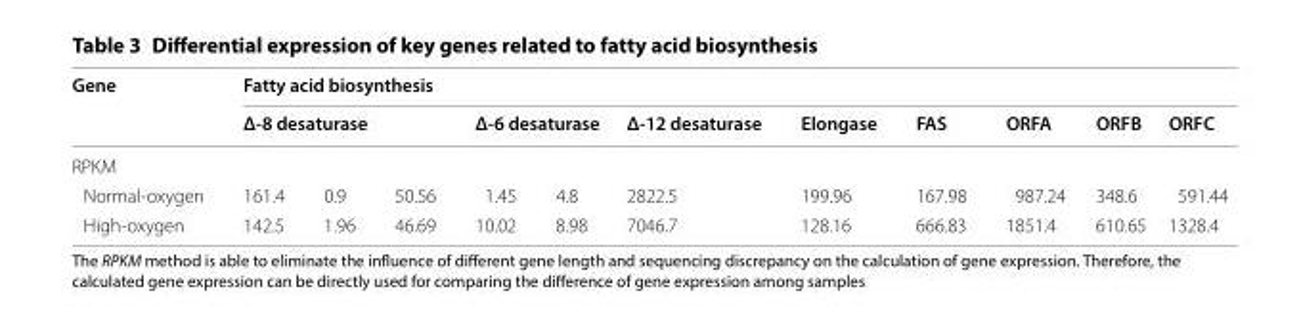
<table><thead><tr><td rowspan="2">Gene</td><td colspan="11">Fatty acid biosynthesis</td></tr><tr><td colspan="3">Δ‑8 desaturase</td><td colspan="2">Δ‑6 desaturase</td><td>Δ‑12 desaturase</td><td>Elongase</td><td>FAS</td><td>ORFA</td><td>ORFB</td><td>ORFC</td></tr><tr><td colspan="12">RPKM</td></tr><tr><td>Normal‑oxygen</td><td>161.4</td><td>0.9</td><td>50.56</td><td>1.45</td><td>4.8</td><td>2822.5</td><td>199.96</td><td>167.98</td><td>987.24</td><td>348.6</td><td>591.44</td></tr></thead><tbody><tr><td>High‑oxygen</td><td>142.5</td><td>1.96</td><td>46.69</td><td>10.02</td><td>8.98</td><td>7046.7</td><td>128.16</td><td>666.83</td><td>1851.4</td><td>610.65</td><td>1328.4</td></tr></tbody></table>